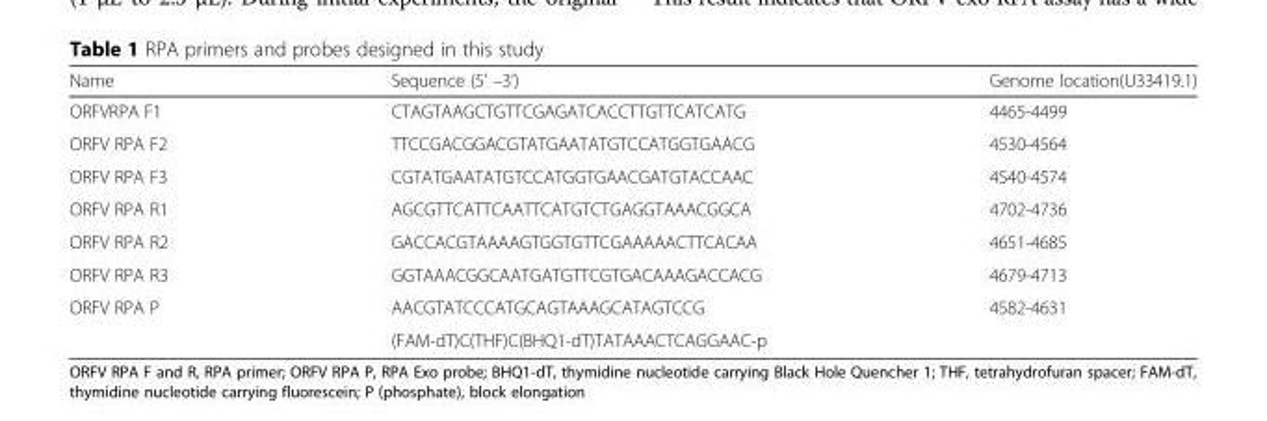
<table><thead><tr><td>Name</td><td>Sequence (5’ –3’)</td><td>Genome location(U33419.1)</td></tr></thead><tbody><tr><td>ORFVRPA F1</td><td>CTAGTAAGCTGTTCGAGATCACCTTGTTCATCATG</td><td>4465-4499</td></tr><tr><td>ORFV RPA F2</td><td>TTCCGACGGACGTATGAATATGTCCATGGTGAACG</td><td>4530-4564</td></tr><tr><td>ORFV RPA F3</td><td>CGTATGAATATGTCCATGGTGAACGATGTACCAAC</td><td>4540-4574</td></tr><tr><td>ORFV RPA R1</td><td>AGCGTTCATTCAATTCATGTCTGAGGTAAACGGCA</td><td>4702-4736</td></tr><tr><td>ORFV RPA R2</td><td>GACCACGTAAAAGTGGTGTTCGAAAAACTTCACAA</td><td>4651-4685</td></tr><tr><td>ORFV RPA R3</td><td>GGTAAACGGCAATGATGTTCGTGACAAAGACCACG</td><td>4679-4713</td></tr><tr><td rowspan="2">ORFV RPA P</td><td>AACGTATCCCATGCAGTAAAGCATAGTCCG</td><td>4582-4631</td></tr><tr><td>(FAM-dT)C(THF)C(BHQ1-dT)TATAAACTCAGGAAC-p</td><td></td></tr></tbody></table>